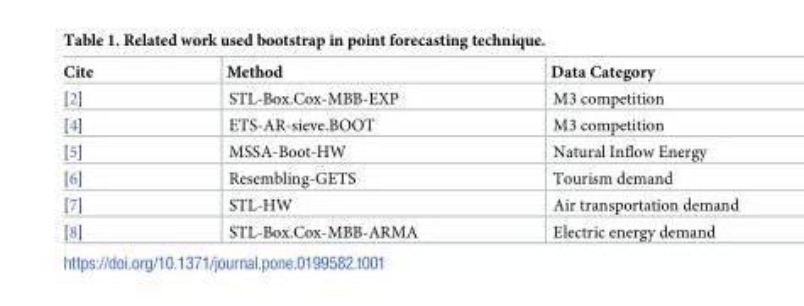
<table><thead><tr><td>Cite</td><td>Method</td><td>Data Category</td></tr></thead><tbody><tr><td>[2]</td><td>STL-Box.Cox-MBB-EXP</td><td>M3 competition</td></tr><tr><td>[4]</td><td>ETS-AR-sieve.BOOT</td><td>M3 competition</td></tr><tr><td>[5]</td><td>MSSA-Boot-HW</td><td>Natural Inflow Energy</td></tr><tr><td>[6]</td><td>Resembling-GETS</td><td>Tourism demand</td></tr><tr><td>[7]</td><td>STL-HW</td><td>Air transportation demand</td></tr><tr><td>[8]</td><td>STL-Box.Cox-MBB-ARMA</td><td>Electric energy demand</td></tr></tbody></table>